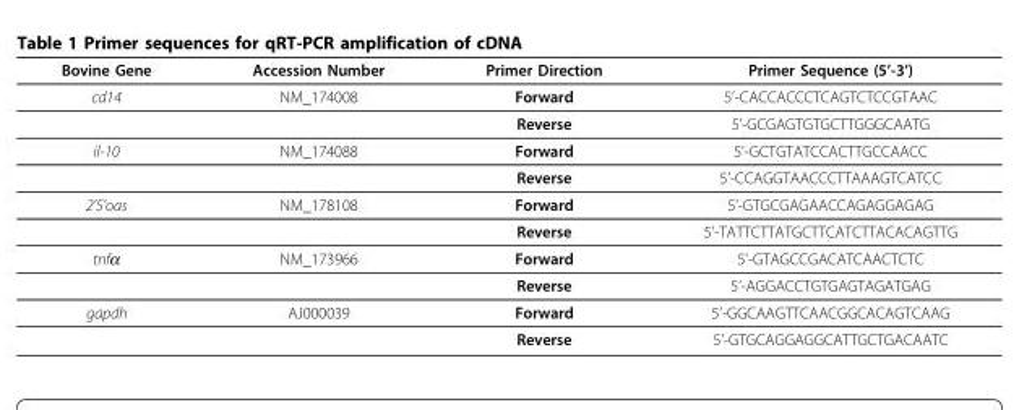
<table><thead><tr><td>Bovine Gene</td><td>Accession Number</td><td>Primer Direction</td><td>Primer Sequence (5’-3’)</td></tr></thead><tbody><tr><td rowspan="2">cd14</td><td>NM_174008</td><td>Forward</td><td>5’-CACCACCCTCAGTCTCCGTAAC</td></tr><tr><td></td><td>Reverse</td><td>5’-GCGAGTGTGCTTGGGCAATG</td></tr><tr><td rowspan="2">il-10</td><td>NM_174088</td><td>Forward</td><td>5’-GCTGTATCCACTTGCCAACC</td></tr><tr><td></td><td>Reverse</td><td>5’-CCAGGTAACCCTTAAAGTCATCC</td></tr><tr><td rowspan="2">2’5’oas</td><td>NM_178108</td><td>Forward</td><td>5’-GTGCGAGAACCAGAGGAGAG</td></tr><tr><td></td><td>Reverse</td><td>5’-TATTCTTATGCTTCATCTTACACAGTTG</td></tr><tr><td rowspan="2">tnfα</td><td>NM_173966</td><td>Forward</td><td>5’-GTAGCCGACATCAACTCTC</td></tr><tr><td></td><td>Reverse</td><td>5’-AGGACCTGTGAGTAGATGAG</td></tr><tr><td rowspan="2">gapdh</td><td>AJ000039</td><td>Forward</td><td>5’-GGCAAGTTCAACGGCACAGTCAAG</td></tr><tr><td></td><td>Reverse</td><td>5’-GTGCAGGAGGCATTGCTGACAATC</td></tr></tbody></table>